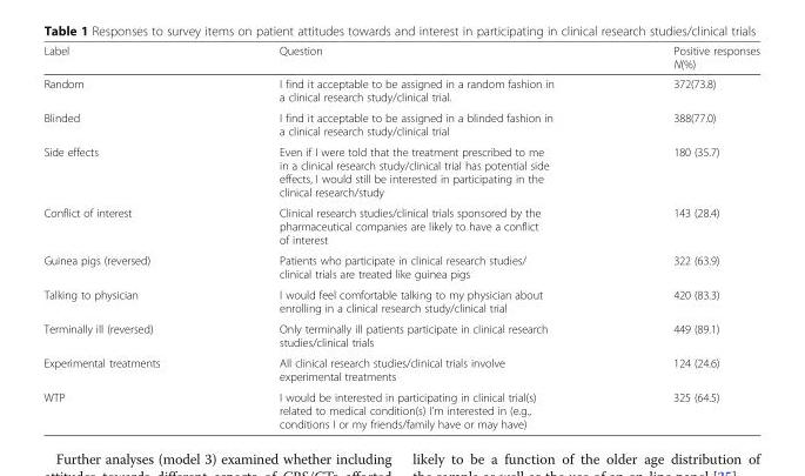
<table><thead><tr><td>Label</td><td>Question</td><td>Positive responses N(%)</td></tr></thead><tbody><tr><td>Random</td><td>I find it acceptable to be assigned in a random fashion in a clinical research study/clinical trial.</td><td>372(73.8)</td></tr><tr><td>Blinded</td><td>I find it acceptable to be assigned in a blinded fashion in a clinical research study/clinical trial</td><td>388(77.0)</td></tr><tr><td>Side effects</td><td>Even if I were told that the treatment prescribed to me in a clinical research study/clinical trial has potential side effects, I would still be interested in participating in the clinical research/study</td><td>180 (35.7)</td></tr><tr><td>Conflict of interest</td><td>Clinical research studies/clinical trials sponsored by the pharmaceutical companies are likely to have a conflict of interest</td><td>143 (28.4)</td></tr><tr><td>Guinea pigs (reversed)</td><td>Patients who participate in clinical research studies/ clinical trials are treated like guinea pigs</td><td>322 (63.9)</td></tr><tr><td>Talking to physician</td><td>I would feel comfortable talking to my physician about enrolling in a clinical research study/clinical trial</td><td>420 (83.3)</td></tr><tr><td>Terminally ill (reversed)</td><td>Only terminally ill patients participate in clinical research studies/clinical trials</td><td>449 (89.1)</td></tr><tr><td>Experimental treatments</td><td>All clinical research studies/clinical trials involve experimental treatments</td><td>124 (24.6)</td></tr><tr><td>WTP</td><td>I would be interested in participating in clinical trial(s) related to medical condition(s) I’m interested in (e.g., conditions I or my friends/family have or may have)</td><td>325 (64.5)</td></tr></tbody></table>